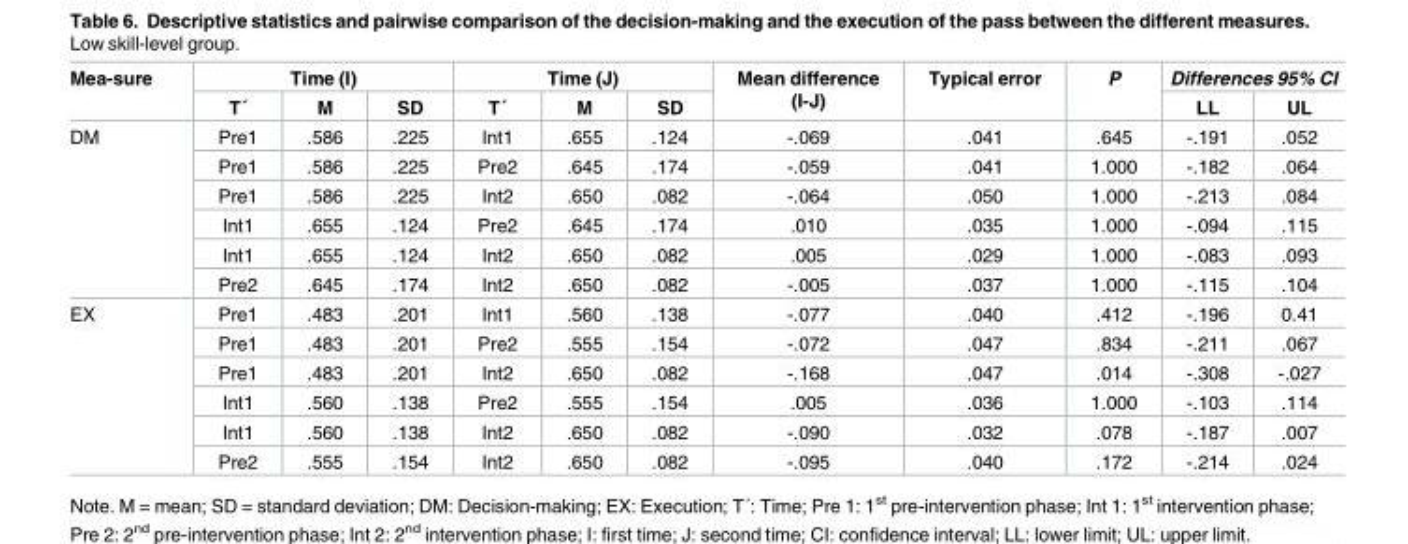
<table><thead><tr><td rowspan="2">Mea-sure</td><td colspan="3">Time (I)</td><td colspan="3">Time (J)</td><td rowspan="2">Mean difference (I-J)</td><td rowspan="2">Typical error</td><td rowspan="2">P</td><td colspan="2">Differences 95% CI</td></tr><tr><td>T´</td><td>M</td><td>SD</td><td>T´</td><td>M</td><td>SD</td><td>LL</td><td>UL</td></tr></thead><tbody><tr><td rowspan="6">DM</td><td>Pre1</td><td>.586</td><td>.225</td><td>Int1</td><td>.655</td><td>.124</td><td>-.069</td><td>.041</td><td>.645</td><td>-.191</td><td>.052</td></tr><tr><td>Pre1</td><td>.586</td><td>.225</td><td>Pre2</td><td>.645</td><td>.174</td><td>-.059</td><td>.041</td><td>1.000</td><td>-.182</td><td>.064</td></tr><tr><td>Pre1</td><td>.586</td><td>.225</td><td>Int2</td><td>.650</td><td>.082</td><td>-.064</td><td>.050</td><td>1.000</td><td>-.213</td><td>.084</td></tr><tr><td>Int1</td><td>.655</td><td>.124</td><td>Pre2</td><td>.645</td><td>.174</td><td>.010</td><td>.035</td><td>1.000</td><td>-.094</td><td>.115</td></tr><tr><td>Int1</td><td>.655</td><td>.124</td><td>Int2</td><td>.650</td><td>.082</td><td>.005</td><td>.029</td><td>1.000</td><td>-.083</td><td>.093</td></tr><tr><td>Pre2</td><td>.645</td><td>.174</td><td>Int2</td><td>.650</td><td>.082</td><td>-.005</td><td>.037</td><td>1.000</td><td>-.115</td><td>.104</td></tr><tr><td rowspan="6">EX</td><td>Pre1</td><td>.483</td><td>.201</td><td>Int1</td><td>.560</td><td>.138</td><td>-.077</td><td>.040</td><td>.412</td><td>-.196</td><td>0.41</td></tr><tr><td>Pre1</td><td>.483</td><td>.201</td><td>Pre2</td><td>.555</td><td>.154</td><td>-.072</td><td>.047</td><td>.834</td><td>-.211</td><td>.067</td></tr><tr><td>Pre1</td><td>.483</td><td>.201</td><td>Int2</td><td>.650</td><td>.082</td><td>-.168</td><td>.047</td><td>.014</td><td>-.308</td><td>-.027</td></tr><tr><td>Int1</td><td>.560</td><td>.138</td><td>Pre2</td><td>.555</td><td>.154</td><td>.005</td><td>.036</td><td>1.000</td><td>-.103</td><td>.114</td></tr><tr><td>Int1</td><td>.560</td><td>.138</td><td>Int2</td><td>.650</td><td>.082</td><td>-.090</td><td>.032</td><td>.078</td><td>-.187</td><td>.007</td></tr><tr><td>Pre2</td><td>.555</td><td>.154</td><td>Int2</td><td>.650</td><td>.082</td><td>-.095</td><td>.040</td><td>.172</td><td>-.214</td><td>.024</td></tr></tbody></table>